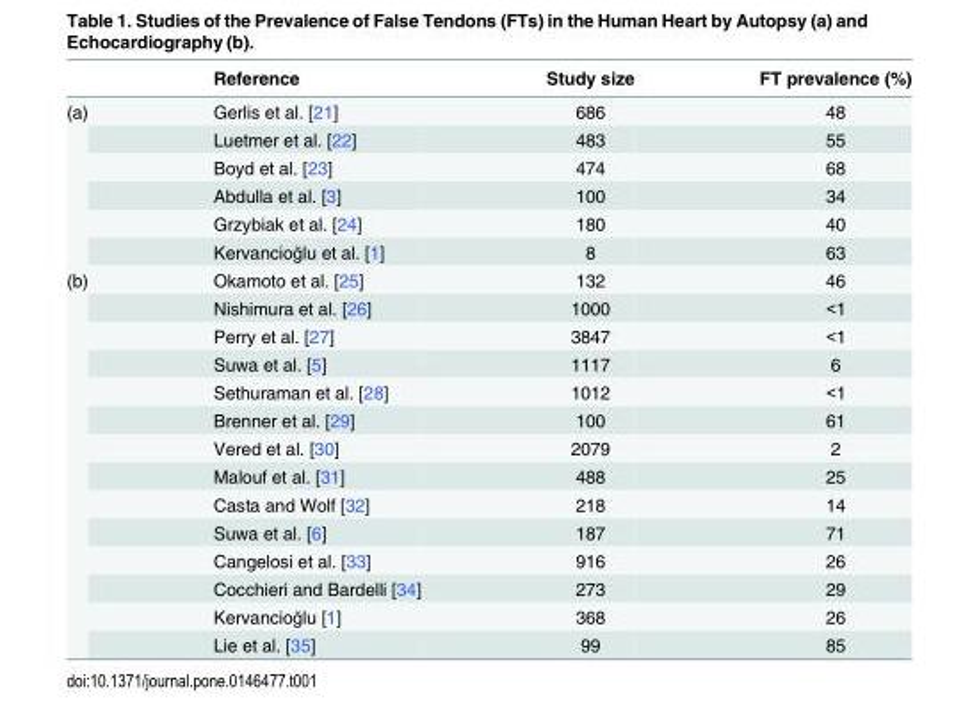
<table><thead><tr><td></td><td>Reference</td><td>Study size</td><td>FT prevalence (%)</td></tr></thead><tbody><tr><td rowspan="6">(a)</td><td>Gerlis et al. [21]</td><td>686</td><td>48</td></tr><tr><td>Luetmer et al. [22]</td><td>483</td><td>55</td></tr><tr><td>Boyd et al. [23]</td><td>474</td><td>68</td></tr><tr><td>Abdulla et al. [3]</td><td>100</td><td>34</td></tr><tr><td>Grzybiak et al. [24]</td><td>180</td><td>40</td></tr><tr><td>Kervancioğlu et al. [1]</td><td>8</td><td>63</td></tr><tr><td rowspan="14">(b)</td><td>Okamoto et al. [25]</td><td>132</td><td>46</td></tr><tr><td>Nishimura et al. [26]</td><td>1000</td><td>&lt;1</td></tr><tr><td>Perry et al. [27]</td><td>3847</td><td>&lt;1</td></tr><tr><td>Suwa et al. [5]</td><td>1117</td><td>6</td></tr><tr><td>Sethuraman et al. [28]</td><td>1012</td><td>&lt;1</td></tr><tr><td>Brenner et al. [29]</td><td>100</td><td>61</td></tr><tr><td>Vered et al. [30]</td><td>2079</td><td>2</td></tr><tr><td>Malouf et al. [31]</td><td>488</td><td>25</td></tr><tr><td>Casta and Wolf [32]</td><td>218</td><td>14</td></tr><tr><td>Suwa et al. [6]</td><td>187</td><td>71</td></tr><tr><td>Cangelosi et al. [33]</td><td>916</td><td>26</td></tr><tr><td>Cocchieri and Bardelli [34]</td><td>273</td><td>29</td></tr><tr><td>Kervancioğlu [1]</td><td>368</td><td>26</td></tr><tr><td>Lie et al. [35]</td><td>99</td><td>85</td></tr></tbody></table>